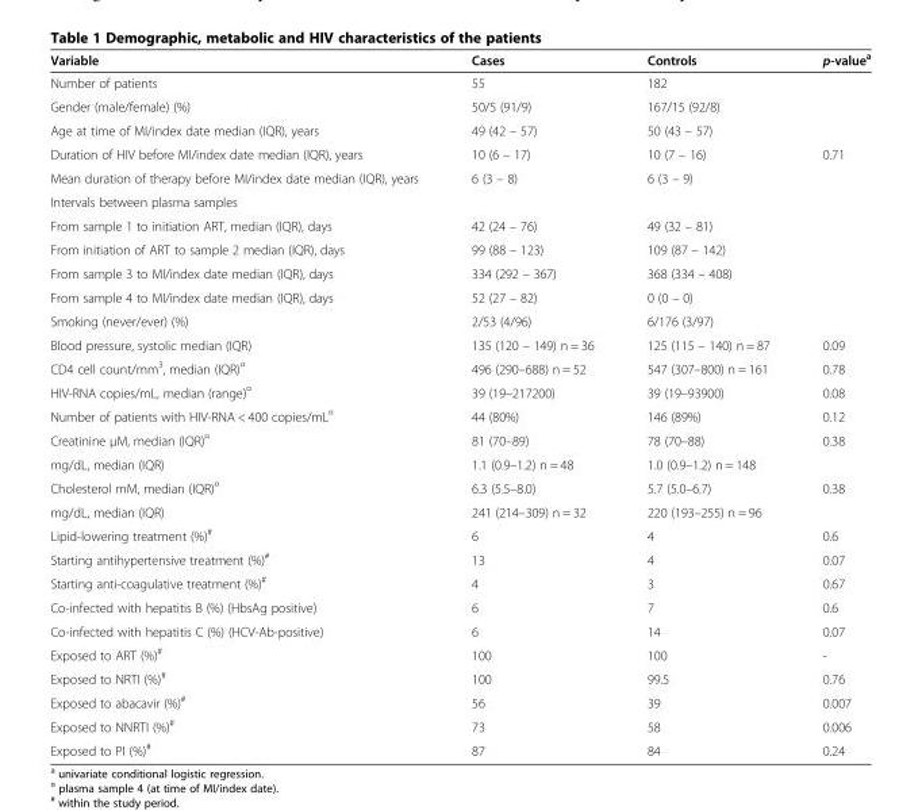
<table><thead><tr><td>Variable</td><td>Cases</td><td>Controls</td><td>p-value<sup>a</sup></td></tr></thead><tbody><tr><td>Number of patients</td><td>55</td><td>182</td><td></td></tr><tr><td>Gender (male/female) (%)</td><td>50/5 (91/9)</td><td>167/15 (92/8)</td><td></td></tr><tr><td>Age at time of MI/index date median (IQR), years</td><td>49 (42 – 57)</td><td>50 (43 – 57)</td><td></td></tr><tr><td>Duration of HIV before MI/index date median (IQR), years</td><td>10 (6 – 17)</td><td>10 (7 – 16)</td><td>0.71</td></tr><tr><td>Mean duration of therapy before MI/index date median (IQR), years</td><td>6 (3 – 8)</td><td>6 (3 – 9)</td><td></td></tr><tr><td colspan="4">Intervals between plasma samples</td></tr><tr><td>From sample 1 to initiation ART, median (IQR), days</td><td>42 (24 – 76)</td><td>49 (32 – 81)</td><td></td></tr><tr><td>From initiation of ART to sample 2 median (IQR), days</td><td>99 (88 – 123)</td><td>109 (87 – 142)</td><td></td></tr><tr><td>From sample 3 to MI/index date median (IQR), days</td><td>334 (292 – 367)</td><td>368 (334 – 408)</td><td></td></tr><tr><td>From sample 4 to MI/index date median (IQR), days</td><td>52 (27 – 82)</td><td>0 (0 – 0)</td><td></td></tr><tr><td>Smoking (never/ever) (%)</td><td>2/53 (4/96)</td><td>6/176 (3/97)</td><td></td></tr><tr><td>Blood pressure, systolic median (IQR)</td><td>135 (120 – 149) n = 36</td><td>125 (115 – 140) n = 87</td><td>0.09</td></tr><tr><td>CD4 cell count/mm<sup>3</sup>, median (IQR)<sup>¤</sup></td><td>496 (290–688) n = 52</td><td>547 (307–800) n = 161</td><td>0.78</td></tr><tr><td>HIV-RNA copies/mL, median (range)<sup>¤</sup></td><td>39 (19–217200)</td><td>39 (19–93900)</td><td>0.08</td></tr><tr><td>Number of patients with HIV-RNA &lt; 400 copies/mL<sup>¤</sup></td><td>44 (80%)</td><td>146 (89%)</td><td>0.12</td></tr><tr><td>Creatinine μM, median (IQR)<sup>¤</sup></td><td>81 (70–89)</td><td>78 (70–88)</td><td>0.38</td></tr><tr><td>mg/dL, median (IQR)</td><td>1.1 (0.9–1.2) n = 48</td><td>1.0 (0.9–1.2) n = 148</td><td></td></tr><tr><td>Cholesterol mM, median (IQR)<sup>¤</sup></td><td>6.3 (5.5–8.0)</td><td>5.7 (5.0–6.7)</td><td rowspan="2">0.38</td></tr><tr><td>mg/dL, median (IQR)</td><td>241 (214–309) n = 32</td><td>220 (193–255) n = 96</td></tr><tr><td>Lipid-lowering treatment (%)<sup>#</sup></td><td>6</td><td>4</td><td>0.6</td></tr><tr><td>Starting antihypertensive treatment (%)<sup>#</sup></td><td>13</td><td>4</td><td>0.07</td></tr><tr><td>Starting anti-coagulative treatment (%)<sup>#</sup></td><td>4</td><td>3</td><td>0.67</td></tr><tr><td>Co-infected with hepatitis B (%) (HbsAg positive)</td><td>6</td><td>7</td><td>0.6</td></tr><tr><td>Co-infected with hepatitis C (%) (HCV-Ab-positive)</td><td>6</td><td>14</td><td>0.07</td></tr><tr><td>Exposed to ART (%)<sup>#</sup></td><td>100</td><td>100</td><td>-</td></tr><tr><td>Exposed to NRTI (%)<sup>#</sup></td><td>100</td><td>99.5</td><td>0.76</td></tr><tr><td>Exposed to abacavir (%)<sup>#</sup></td><td>56</td><td>39</td><td>0.007</td></tr><tr><td>Exposed to NNRTI (%)<sup>#</sup></td><td>73</td><td>58</td><td>0.006</td></tr><tr><td>Exposed to PI (%)<sup>#</sup></td><td>87</td><td>84</td><td>0.24</td></tr></tbody></table>